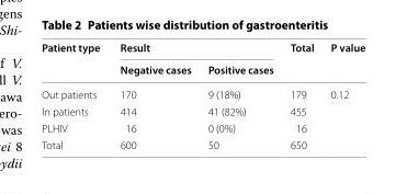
<table><thead><tr><td rowspan="2">Patient type</td><td colspan="2">Result</td><td rowspan="2">Total</td><td rowspan="2">P value</td></tr><tr><td>Negative cases</td><td>Positive cases</td></tr></thead><tbody><tr><td>Out patients</td><td>170</td><td>9 (18%)</td><td>179</td><td rowspan="4">0.12</td></tr><tr><td>In patients</td><td>414</td><td>41 (82%)</td><td>455</td></tr><tr><td>PLHIV</td><td>16</td><td>0 (0%)</td><td>16</td></tr><tr><td>Total</td><td>600</td><td>50</td><td>650</td></tr></tbody></table>